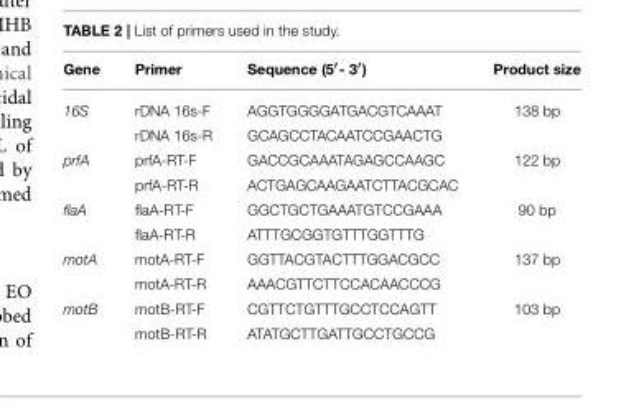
<table><thead><tr><td>Gene</td><td>Primer</td><td>Sequence (5<sup>′</sup>- 3<sup>′</sup>)</td><td>Product size</td></tr></thead><tbody><tr><td rowspan="2">16S</td><td>rDNA 16s-F</td><td>AGGTGGGGATGACGTCAAAT</td><td>138 bp</td></tr><tr><td>rDNA 16s-R</td><td>GCAGCCTACAATCCGAACTG</td><td></td></tr><tr><td rowspan="2">prfA</td><td>prfA-RT-F</td><td>GACCGCAAATAGAGCCAAGC</td><td>122 bp</td></tr><tr><td>prfA-RT-R</td><td>ACTGAGCAAGAATCTTACGCAC</td><td></td></tr><tr><td rowspan="2">flaA</td><td>flaA-RT-F</td><td>GGCTGCTGAAATGTCCGAAA</td><td>90 bp</td></tr><tr><td>flaA-RT-R</td><td>ATTTGCGGTGTTTGGTTTG</td><td></td></tr><tr><td rowspan="2">motA</td><td>motA-RT-F</td><td>GGTTACGTACTTTGGACGCC</td><td>137 bp</td></tr><tr><td>motA-RT-R</td><td>AAACGTTCTTCCACAACCCG</td><td></td></tr><tr><td rowspan="2">motB</td><td>motB-RT-F</td><td>CGTTCTGTTTGCCTCCAGTT</td><td>103 bp</td></tr><tr><td>motB-RT-R</td><td>ATATGCTTGATTGCCTGCCG</td><td></td></tr></tbody></table>